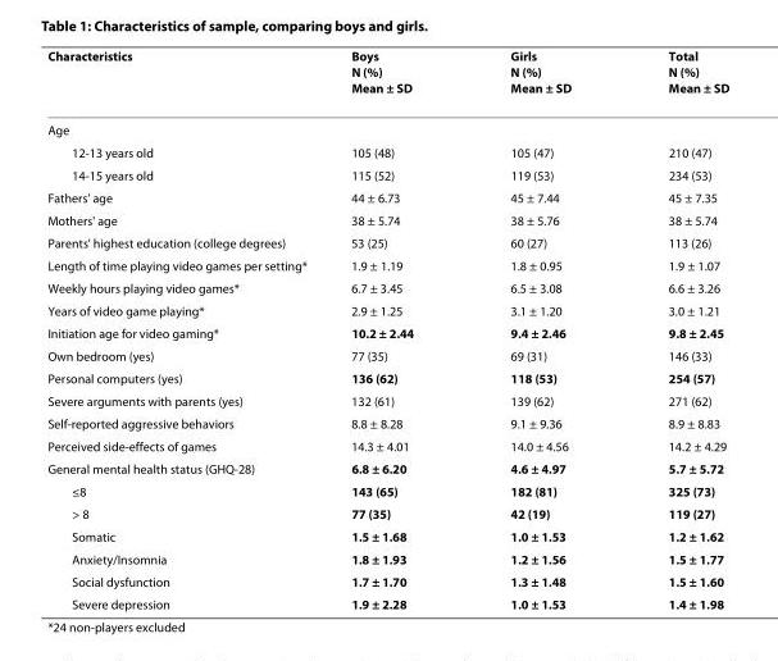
<table><thead><tr><td>Characteristics</td><td>Boys N (%) Mean ± SD</td><td>Girls N (%) Mean ± SD</td><td>Total N (%) Mean ± SD</td></tr></thead><tbody><tr><td colspan="4">Age</td></tr><tr><td>12-13 years old</td><td>105 (48)</td><td>105 (47)</td><td>210 (47)</td></tr><tr><td>14-15 years old</td><td>115 (52)</td><td>119 (53)</td><td>234 (53)</td></tr><tr><td>Fathers&#x27; age</td><td>44 ± 6.73</td><td>45 ± 7.44</td><td>45 ± 7.35</td></tr><tr><td>Mothers&#x27; age</td><td>38 ± 5.74</td><td>38 ± 5.76</td><td>38 ± 5.74</td></tr><tr><td>Parents&#x27; highest education (college degrees)</td><td>53 (25)</td><td>60 (27)</td><td>113 (26)</td></tr><tr><td>Length of time playing video games per setting*</td><td>1.9 ± 1.19</td><td>1.8 ± 0.95</td><td>1.9 ± 1.07</td></tr><tr><td>Weekly hours playing video games*</td><td>6.7 ± 3.45</td><td>6.5 ± 3.08</td><td>6.6 ± 3.26</td></tr><tr><td>Years of video game playing*</td><td>2.9 ± 1.25</td><td>3.1 ± 1.20</td><td>3.0 ± 1.21</td></tr><tr><td>Initiation age for video gaming*</td><td>10.2 ± 2.44</td><td>9.4 ± 2.46</td><td>9.8 ± 2.45</td></tr><tr><td>Own bedroom (yes)</td><td>77 (35)</td><td>69 (31)</td><td>146 (33)</td></tr><tr><td>Personal computers (yes)</td><td>136 (62)</td><td>118 (53)</td><td>254 (57)</td></tr><tr><td>Severe arguments with parents (yes)</td><td>132 (61)</td><td>139 (62)</td><td>271 (62)</td></tr><tr><td>Self-reported aggressive behaviors</td><td>8.8 ± 8.28</td><td>9.1 ± 9.36</td><td>8.9 ± 8.83</td></tr><tr><td>Perceived side-effects of games</td><td>14.3 ± 4.01</td><td>14.0 ± 4.56</td><td>14.2 ± 4.29</td></tr><tr><td>General mental health status (GHQ-28)</td><td>6.8 ± 6.20</td><td>4.6 ± 4.97</td><td>5.7 ± 5.72</td></tr><tr><td>≤8</td><td>143 (65)</td><td>182 (81)</td><td>325 (73)</td></tr><tr><td>&gt; 8</td><td>77 (35)</td><td>42 (19)</td><td>119 (27)</td></tr><tr><td>Somatic</td><td>1.5 ± 1.68</td><td>1.0 ± 1.53</td><td>1.2 ± 1.62</td></tr><tr><td>Anxiety/Insomnia</td><td>1.8 ± 1.93</td><td>1.2 ± 1.56</td><td>1.5 ± 1.77</td></tr><tr><td>Social dysfunction</td><td>1.7 ± 1.70</td><td>1.3 ± 1.48</td><td>1.5 ± 1.60</td></tr><tr><td>Severe depression</td><td>1.9 ± 2.28</td><td>1.0 ± 1.53</td><td>1.4 ± 1.98</td></tr></tbody></table>